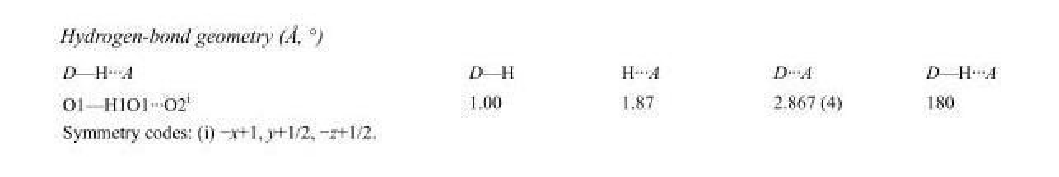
<table><tbody><tr><td>D—H···A</td><td>D—H</td><td>H···A</td><td>D···A</td><td>D—H···A</td></tr><tr><td>O1—H1O1···O2<sup>i</sup></td><td>1.00</td><td>1.87</td><td>2.867 (4)</td><td>180</td></tr></tbody></table>